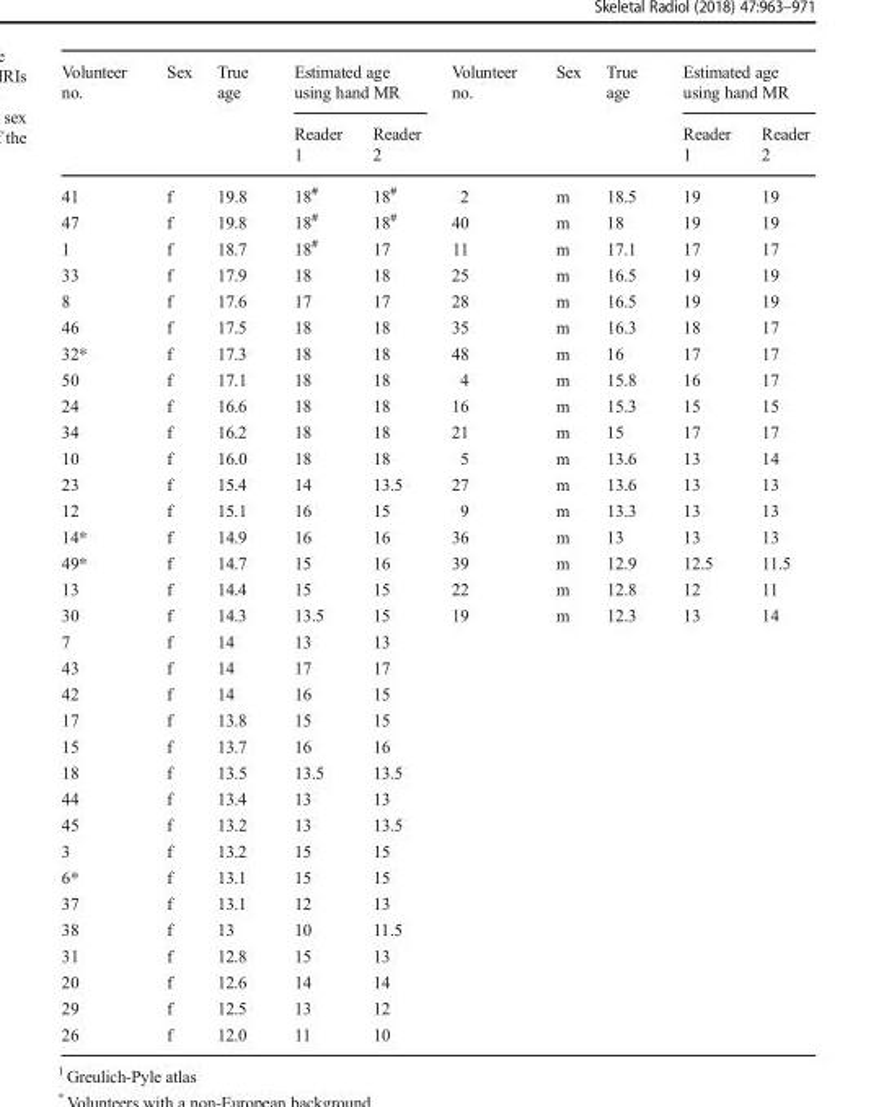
<table><thead><tr><td rowspan="2">Volunteer no.</td><td rowspan="2">Sex</td><td rowspan="2">True age</td><td colspan="2">Estimated age using hand MR</td><td rowspan="2">Volunteer no.</td><td rowspan="2">Sex</td><td rowspan="2">True age</td><td colspan="2">Estimated age using hand MR</td></tr><tr><td>Reader 1</td><td>Reader 2</td><td>Reader 1</td><td>Reader 2</td></tr></thead><tbody><tr><td>41</td><td>f</td><td>19.8</td><td>18<sup>#</sup></td><td>18<sup>#</sup></td><td>2</td><td>m</td><td>18.5</td><td>19</td><td>19</td></tr><tr><td>47</td><td>f</td><td>19.8</td><td>18<sup>#</sup></td><td>18<sup>#</sup></td><td>40</td><td>m</td><td>18</td><td>19</td><td>19</td></tr><tr><td>1</td><td>f</td><td>18.7</td><td>18<sup>#</sup></td><td>17</td><td>11</td><td>m</td><td>17.1</td><td>17</td><td>17</td></tr><tr><td>33</td><td>f</td><td>17.9</td><td>18</td><td>18</td><td>25</td><td>m</td><td>16.5</td><td>19</td><td>19</td></tr><tr><td>8</td><td>f</td><td>17.6</td><td>17</td><td>17</td><td>28</td><td>m</td><td>16.5</td><td>19</td><td>19</td></tr><tr><td>46</td><td>f</td><td>17.5</td><td>18</td><td>18</td><td>35</td><td>m</td><td>16.3</td><td>18</td><td>17</td></tr><tr><td>32*</td><td>f</td><td>17.3</td><td>18</td><td>18</td><td>48</td><td>m</td><td>16</td><td>17</td><td>17</td></tr><tr><td>50</td><td>f</td><td>17.1</td><td>18</td><td>18</td><td>4</td><td>m</td><td>15.8</td><td>16</td><td>17</td></tr><tr><td>24</td><td>f</td><td>16.6</td><td>18</td><td>18</td><td>16</td><td>m</td><td>15.3</td><td>15</td><td>15</td></tr><tr><td>34</td><td>f</td><td>16.2</td><td>18</td><td>18</td><td>21</td><td>m</td><td>15</td><td>17</td><td>17</td></tr><tr><td>10</td><td>f</td><td>16.0</td><td>18</td><td>18</td><td>5</td><td>m</td><td>13.6</td><td>13</td><td>14</td></tr><tr><td>23</td><td>f</td><td>15.4</td><td>14</td><td>13.5</td><td>27</td><td>m</td><td>13.6</td><td>13</td><td>13</td></tr><tr><td>12</td><td>f</td><td>15.1</td><td>16</td><td>15</td><td>9</td><td>m</td><td>13.3</td><td>13</td><td>13</td></tr><tr><td>14*</td><td>f</td><td>14.9</td><td>16</td><td>16</td><td>36</td><td>m</td><td>13</td><td>13</td><td>13</td></tr><tr><td>49*</td><td>f</td><td>14.7</td><td>15</td><td>16</td><td>39</td><td>m</td><td>12.9</td><td>12.5</td><td>11.5</td></tr><tr><td>13</td><td>f</td><td>14.4</td><td>15</td><td>15</td><td>22</td><td>m</td><td>12.8</td><td>12</td><td>11</td></tr><tr><td>30</td><td>f</td><td>14.3</td><td>13.5</td><td>15</td><td>19</td><td>m</td><td>12.3</td><td>13</td><td>14</td></tr><tr><td>7</td><td>f</td><td>14</td><td>13</td><td>13</td><td></td><td></td><td></td><td></td><td></td></tr><tr><td>43</td><td>f</td><td>14</td><td>17</td><td>17</td><td></td><td></td><td></td><td></td><td></td></tr><tr><td>42</td><td>f</td><td>14</td><td>16</td><td>15</td><td></td><td></td><td></td><td></td><td></td></tr><tr><td>17</td><td>f</td><td>13.8</td><td>15</td><td>15</td><td></td><td></td><td></td><td></td><td></td></tr><tr><td>15</td><td>f</td><td>13.7</td><td>16</td><td>16</td><td></td><td></td><td></td><td></td><td></td></tr><tr><td>18</td><td>f</td><td>13.5</td><td>13.5</td><td>13.5</td><td></td><td></td><td></td><td></td><td></td></tr><tr><td>44</td><td>f</td><td>13.4</td><td>13</td><td>13</td><td></td><td></td><td></td><td></td><td></td></tr><tr><td>45</td><td>f</td><td>13.2</td><td>13</td><td>13.5</td><td></td><td></td><td></td><td></td><td></td></tr><tr><td>3</td><td>f</td><td>13.2</td><td>15</td><td>15</td><td></td><td></td><td></td><td></td><td></td></tr><tr><td>6*</td><td>f</td><td>13.1</td><td>15</td><td>15</td><td></td><td></td><td></td><td></td><td></td></tr><tr><td>37</td><td>f</td><td>13.1</td><td>12</td><td>13</td><td></td><td></td><td></td><td></td><td></td></tr><tr><td>38</td><td>f</td><td>13</td><td>10</td><td>11.5</td><td></td><td></td><td></td><td></td><td></td></tr><tr><td>31</td><td>f</td><td>12.8</td><td>15</td><td>13</td><td></td><td></td><td></td><td></td><td></td></tr><tr><td>20</td><td>f</td><td>12.6</td><td>14</td><td>14</td><td></td><td></td><td></td><td></td><td></td></tr><tr><td>29</td><td>f</td><td>12.5</td><td>13</td><td>12</td><td></td><td></td><td></td><td></td><td></td></tr><tr><td>26</td><td>f</td><td>12.0</td><td>11</td><td>10</td><td></td><td></td><td></td><td></td><td></td></tr></tbody></table>